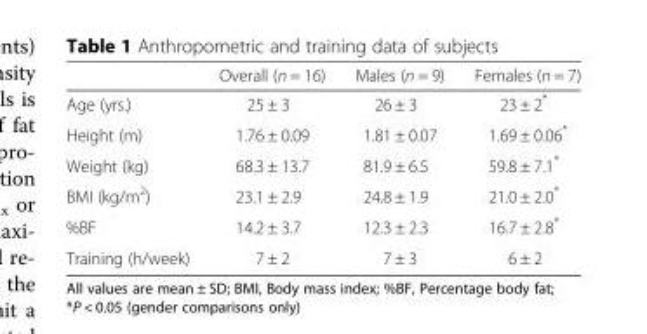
<table><thead><tr><td></td><td>Overall (n = 16)</td><td>Males (n = 9)</td><td>Females (n = 7)</td></tr></thead><tbody><tr><td>Age (yrs.)</td><td>25 ± 3</td><td>26 ± 3</td><td>23 ± 2*</td></tr><tr><td>Height (m)</td><td>1.76 ± 0.09</td><td>1.81 ± 0.07</td><td>1.69 ± 0.06*</td></tr><tr><td>Weight (kg)</td><td>68.3 ± 13.7</td><td>81.9 ± 6.5</td><td>59.8 ± 7.1*</td></tr><tr><td>BMI (kg/m<sup>2</sup>)</td><td>23.1 ± 2.9</td><td>24.8 ± 1.9</td><td>21.0 ± 2.0*</td></tr><tr><td>%BF</td><td>14.2 ± 3.7</td><td>12.3 ± 2.3</td><td>16.7 ± 2.8*</td></tr><tr><td>Training (h/week)</td><td>7 ± 2</td><td>7 ± 3</td><td>6 ± 2</td></tr></tbody></table>